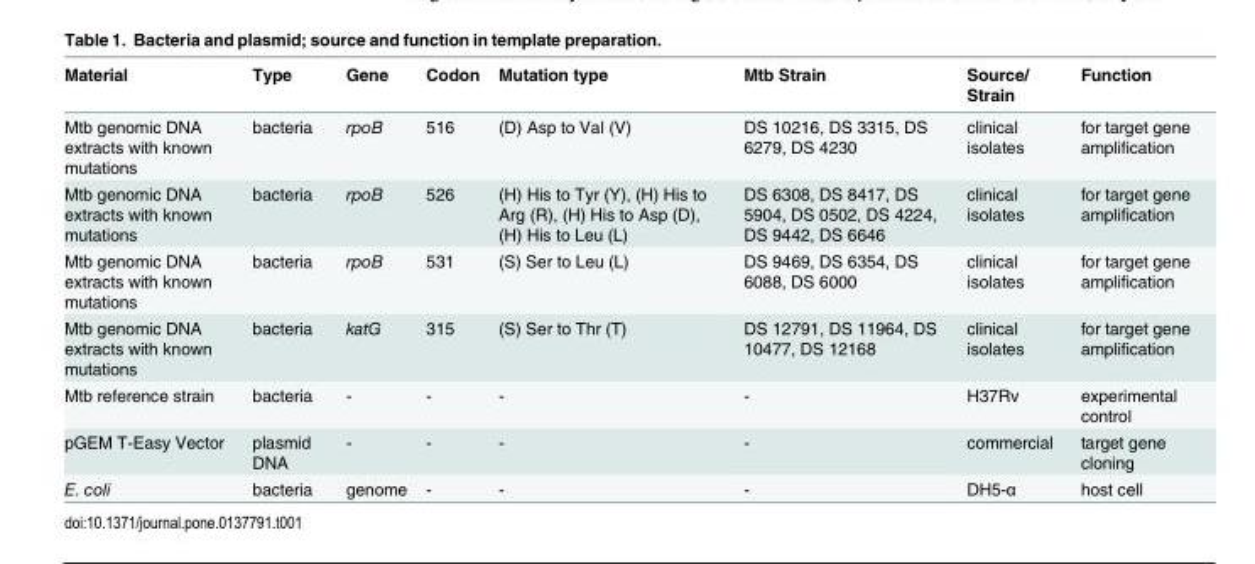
<table><thead><tr><td>Material</td><td>Type</td><td>Gene</td><td>Codon</td><td>Mutation type</td><td>Mtb Strain</td><td>Source/ Strain</td><td>Function</td></tr></thead><tbody><tr><td>Mtb genomic DNA extracts with known mutations</td><td>bacteria</td><td>rpoB</td><td>516</td><td>(D) Asp to Val (V)</td><td>DS 10216, DS 3315, DS 6279, DS 4230</td><td>clinical isolates</td><td>for target gene amplification</td></tr><tr><td>Mtb genomic DNA extracts with known mutations</td><td>bacteria</td><td>rpoB</td><td>526</td><td>(H) His to Tyr (Y), (H) His to Arg (R), (H) His to Asp (D), (H) His to Leu (L)</td><td>DS 6308, DS 8417, DS 5904, DS 0502, DS 4224, DS 9442, DS 6646</td><td>clinical isolates</td><td>for target gene amplification</td></tr><tr><td>Mtb genomic DNA extracts with known mutations</td><td>bacteria</td><td>rpoB</td><td>531</td><td>(S) Ser to Leu (L)</td><td>DS 9469, DS 6354, DS 6088, DS 6000</td><td>clinical isolates</td><td>for target gene amplification</td></tr><tr><td>Mtb genomic DNA extracts with known mutations</td><td>bacteria</td><td>katG</td><td>315</td><td>(S) Ser to Thr (T)</td><td>DS 12791, DS 11964, DS 10477, DS 12168</td><td>clinical isolates</td><td>for target gene amplification</td></tr><tr><td>Mtb reference strain</td><td>bacteria</td><td>-</td><td>-</td><td>-</td><td>-</td><td>H37Rv</td><td>experimental control</td></tr><tr><td>pGEM T-Easy Vector</td><td>plasmid DNA</td><td>-</td><td>-</td><td>-</td><td>-</td><td>commercial</td><td>target gene cloning</td></tr><tr><td>E. coli</td><td>bacteria</td><td>genome</td><td>-</td><td>-</td><td>-</td><td>DH5-α</td><td>host cell</td></tr></tbody></table>